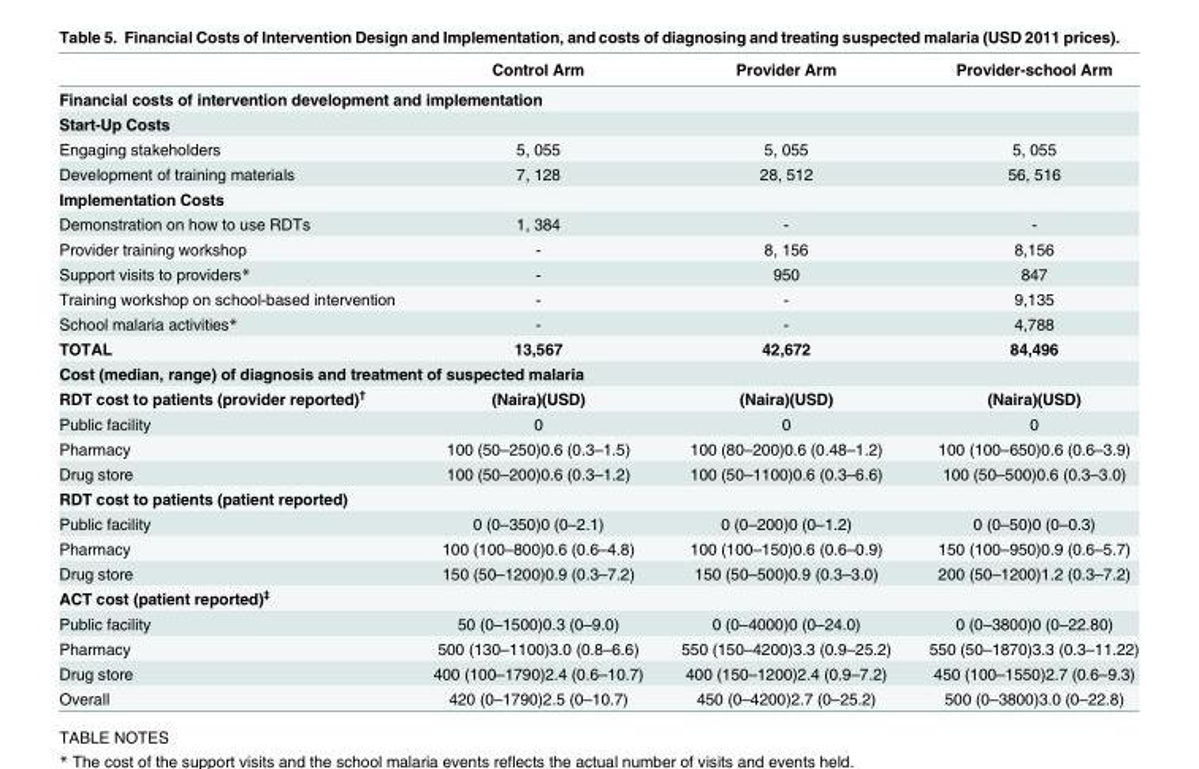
<table><thead><tr><td></td><td>Control Arm</td><td>Provider Arm</td><td>Provider-school Arm</td></tr></thead><tbody><tr><td colspan="4">Financial costs of intervention development and implementation</td></tr><tr><td colspan="4">Start-Up Costs</td></tr><tr><td>Engaging stakeholders</td><td>5, 055</td><td>5, 055</td><td>5, 055</td></tr><tr><td>Development of training materials</td><td>7, 128</td><td>28, 512</td><td>56, 516</td></tr><tr><td colspan="4">Implementation Costs</td></tr><tr><td>Demonstration on how to use RDTs</td><td>1, 384</td><td>-</td><td>-</td></tr><tr><td>Provider training workshop</td><td>-</td><td>8, 156</td><td>8,156</td></tr><tr><td>Support visits to providers*</td><td>-</td><td>950</td><td>847</td></tr><tr><td>Training workshop on school-based intervention</td><td>-</td><td>-</td><td>9,135</td></tr><tr><td>School malaria activities*</td><td>-</td><td>-</td><td>4,788</td></tr><tr><td>TOTAL</td><td>13,567</td><td>42,672</td><td>84,496</td></tr><tr><td colspan="4">Cost (median, range) of diagnosis and treatment of suspected malaria</td></tr><tr><td>RDT cost to patients (provider reported)<sup>†</sup></td><td>(Naira)(USD)</td><td>(Naira)(USD)</td><td>(Naira)(USD)</td></tr><tr><td>Public facility</td><td>0</td><td>0</td><td>0</td></tr><tr><td>Pharmacy</td><td>100 (50–250)0.6 (0.3–1.5)</td><td>100 (80–200)0.6 (0.48–1.2)</td><td>100 (100–650)0.6 (0.6–3.9)</td></tr><tr><td>Drug store</td><td>100 (50–200)0.6 (0.3–1.2)</td><td>100 (50–1100)0.6 (0.3–6.6)</td><td>100 (50–500)0.6 (0.3–3.0)</td></tr><tr><td colspan="4">RDT cost to patients (patient reported)</td></tr><tr><td>Public facility</td><td>0 (0–350)0 (0–2.1)</td><td>0 (0–200)0 (0–1.2)</td><td>0 (0–50)0 (0–0.3)</td></tr><tr><td>Pharmacy</td><td>100 (100–800)0.6 (0.6–4.8)</td><td>100 (100–150)0.6 (0.6–0.9)</td><td>150 (100–950)0.9 (0.6–5.7)</td></tr><tr><td>Drug store</td><td>150 (50–1200)0.9 (0.3–7.2)</td><td>150 (50–500)0.9 (0.3–3.0)</td><td>200 (50–1200)1.2 (0.3–7.2)</td></tr><tr><td colspan="4">ACT cost (patient reported)<sup>‡</sup></td></tr><tr><td>Public facility</td><td>50 (0–1500)0.3 (0–9.0)</td><td>0 (0–4000)0 (0–24.0)</td><td>0 (0–3800)0 (0–22.80)</td></tr><tr><td>Pharmacy</td><td>500 (130–1100)3.0 (0.8–6.6)</td><td>550 (150–4200)3.3 (0.9–25.2)</td><td>550 (50–1870)3.3 (0.3–11.22)</td></tr><tr><td>Drug store</td><td>400 (100–1790)2.4 (0.6–10.7)</td><td>400 (150–1200)2.4 (0.9–7.2)</td><td>450 (100–1550)2.7 (0.6–9.3)</td></tr><tr><td>Overall</td><td>420 (0–1790)2.5 (0–10.7)</td><td>450 (0–4200)2.7 (0–25.2)</td><td>500 (0–3800)3.0 (0–22.8)</td></tr></tbody></table>